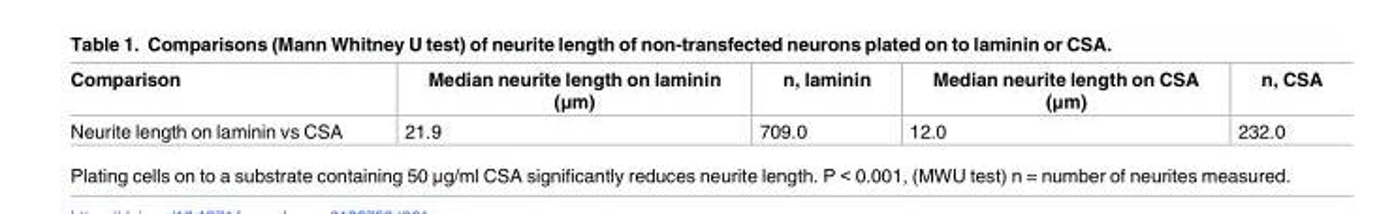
<table><thead><tr><td>Comparison</td><td>Median neurite length on laminin (μm)</td><td>n, laminin</td><td>Median neurite length on CSA (μm)</td><td>n, CSA</td></tr></thead><tbody><tr><td>Neurite length on laminin vs CSA</td><td>21.9</td><td>709.0</td><td>12.0</td><td>232.0</td></tr></tbody></table>